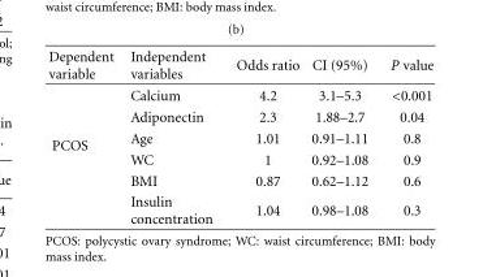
<table><thead><tr><td>Dependent variable</td><td>Independent variables</td><td>Odds ratio</td><td>CI (95%)</td><td>P value</td></tr></thead><tbody><tr><td rowspan="6">PCOS</td><td>Calcium</td><td>4.2</td><td>3.1–5.3</td><td>&lt;0.001</td></tr><tr><td>Adiponectin</td><td>2.3</td><td>1.88–2.7</td><td>0.04</td></tr><tr><td>Age</td><td>1.01</td><td>0.91–1.11</td><td>0.8</td></tr><tr><td>WC</td><td>1</td><td>0.92–1.08</td><td>0.9</td></tr><tr><td>BMI</td><td>0.87</td><td>0.62–1.12</td><td>0.6</td></tr><tr><td>Insulin concentration</td><td>1.04</td><td>0.98–1.08</td><td>0.3</td></tr></tbody></table>